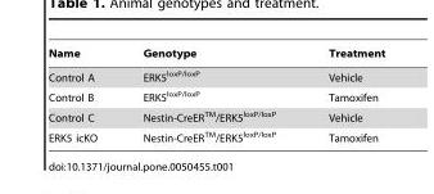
<table><thead><tr><td>Name</td><td>Genotype</td><td>Treatment</td></tr></thead><tbody><tr><td>Control A</td><td>ERK5<sup>loxP/loxP</sup></td><td>Vehicle</td></tr><tr><td>Control B</td><td>ERK5<sup>loxP/loxP</sup></td><td>Tamoxifen</td></tr><tr><td>Control C</td><td>Nestin-CreERTM/ERK5<sup>loxP/loxP</sup></td><td>Vehicle</td></tr><tr><td>ERK5 icKO</td><td>Nestin-CreERTM/ERK5<sup>loxP/loxP</sup></td><td>Tamoxifen</td></tr></tbody></table>